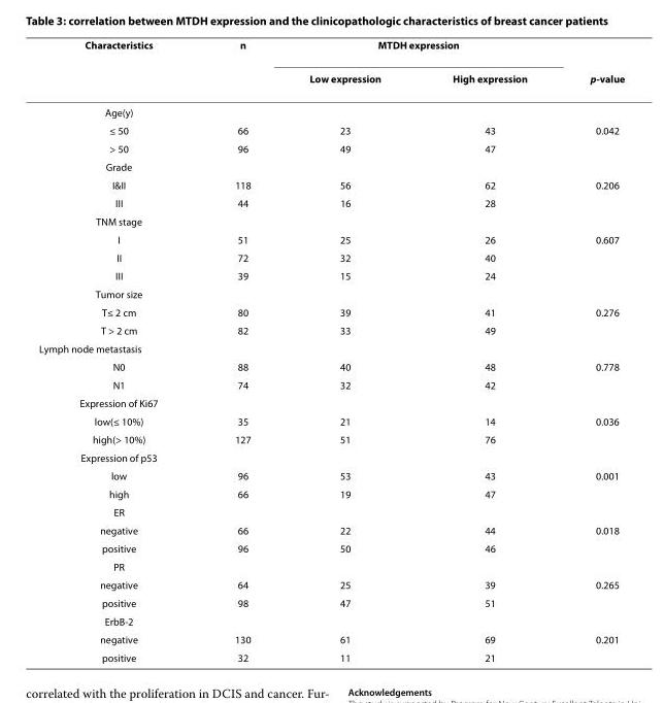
<table><thead><tr><td rowspan="2">Characteristics</td><td rowspan="2">n</td><td colspan="2">MTDH expression</td><td rowspan="2">p-value</td></tr><tr><td>Low expression</td><td>High expression</td></tr></thead><tbody><tr><td colspan="5">Age(y)</td></tr><tr><td>≤ 50</td><td>66</td><td>23</td><td>43</td><td>0.042</td></tr><tr><td>&gt; 50</td><td>96</td><td>49</td><td>47</td><td></td></tr><tr><td colspan="5">Grade</td></tr><tr><td>I&amp;II</td><td>118</td><td>56</td><td>62</td><td>0.206</td></tr><tr><td>III</td><td>44</td><td>16</td><td>28</td><td></td></tr><tr><td colspan="5">TNM stage</td></tr><tr><td>I</td><td>51</td><td>25</td><td>26</td><td>0.607</td></tr><tr><td>II</td><td>72</td><td>32</td><td>40</td><td></td></tr><tr><td>III</td><td>39</td><td>15</td><td>24</td><td></td></tr><tr><td colspan="5">Tumor size</td></tr><tr><td>T≤ 2 cm</td><td>80</td><td>39</td><td>41</td><td>0.276</td></tr><tr><td>T &gt; 2 cm</td><td>82</td><td>33</td><td>49</td><td></td></tr><tr><td colspan="5">Lymph node metastasis</td></tr><tr><td>N0</td><td>88</td><td>40</td><td>48</td><td>0.778</td></tr><tr><td>N1</td><td>74</td><td>32</td><td>42</td><td></td></tr><tr><td colspan="5">Expression of Ki67</td></tr><tr><td>low(≤ 10%)</td><td>35</td><td>21</td><td>14</td><td>0.036</td></tr><tr><td>high(&gt; 10%)</td><td>127</td><td>51</td><td>76</td><td></td></tr><tr><td colspan="5">Expression of p53</td></tr><tr><td>low</td><td>96</td><td>53</td><td>43</td><td>0.001</td></tr><tr><td>high</td><td>66</td><td>19</td><td>47</td><td></td></tr><tr><td colspan="5">ER</td></tr><tr><td>negative</td><td>66</td><td>22</td><td>44</td><td>0.018</td></tr><tr><td>positive</td><td>96</td><td>50</td><td>46</td><td></td></tr><tr><td colspan="5">PR</td></tr><tr><td>negative</td><td>64</td><td>25</td><td>39</td><td>0.265</td></tr><tr><td>positive</td><td>98</td><td>47</td><td>51</td><td></td></tr><tr><td colspan="5">ErbB-2</td></tr><tr><td>negative</td><td>130</td><td>61</td><td>69</td><td>0.201</td></tr><tr><td>positive</td><td>32</td><td>11</td><td>21</td><td></td></tr></tbody></table>